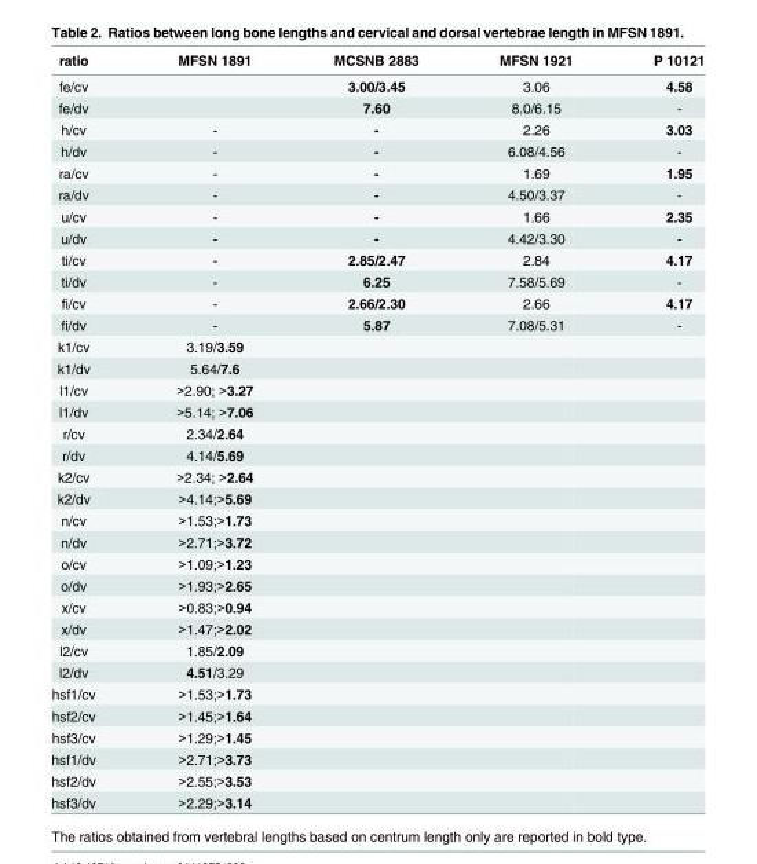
<table><thead><tr><td>ratio</td><td>MFSN 1891</td><td>MCSNB 2883</td><td>MFSN 1921</td><td>P 10121</td></tr></thead><tbody><tr><td>fe/cv</td><td></td><td>3.00/3.45</td><td>3.06</td><td>4.58</td></tr><tr><td>fe/dv</td><td></td><td>7.60</td><td>8.0/6.15</td><td>-</td></tr><tr><td>h/cv</td><td>-</td><td>-</td><td>2.26</td><td>3.03</td></tr><tr><td>h/dv</td><td>-</td><td>-</td><td>6.08/4.56</td><td>-</td></tr><tr><td>ra/cv</td><td>-</td><td>-</td><td>1.69</td><td>1.95</td></tr><tr><td>ra/dv</td><td>-</td><td>-</td><td>4.50/3.37</td><td>-</td></tr><tr><td>u/cv</td><td>-</td><td>-</td><td>1.66</td><td>2.35</td></tr><tr><td>u/dv</td><td>-</td><td>-</td><td>4.42/3.30</td><td>-</td></tr><tr><td>ti/cv</td><td>-</td><td>2.85/2.47</td><td>2.84</td><td>4.17</td></tr><tr><td>ti/dv</td><td>-</td><td>6.25</td><td>7.58/5.69</td><td>-</td></tr><tr><td>fi/cv</td><td>-</td><td>2.66/2.30</td><td>2.66</td><td>4.17</td></tr><tr><td>fi/dv</td><td>-</td><td>5.87</td><td>7.08/5.31</td><td>-</td></tr><tr><td>k1/cv</td><td>3.19/3.59</td><td></td><td></td><td></td></tr><tr><td>k1/dv</td><td>5.64/7.6</td><td></td><td></td><td></td></tr><tr><td>l1/cv</td><td>&gt;2.90; &gt;3.27</td><td></td><td></td><td></td></tr><tr><td>l1/dv</td><td>&gt;5.14; &gt;7.06</td><td></td><td></td><td></td></tr><tr><td>r/cv</td><td>2.34/2.64</td><td></td><td></td><td></td></tr><tr><td>r/dv</td><td>4.14/5.69</td><td></td><td></td><td></td></tr><tr><td>k2/cv</td><td>&gt;2.34; &gt;2.64</td><td></td><td></td><td></td></tr><tr><td>k2/dv</td><td>&gt;4.14;&gt;5.69</td><td></td><td></td><td></td></tr><tr><td>n/cv</td><td>&gt;1.53;&gt;1.73</td><td></td><td></td><td></td></tr><tr><td>n/dv</td><td>&gt;2.71;&gt;3.72</td><td></td><td></td><td></td></tr><tr><td>o/cv</td><td>&gt;1.09;&gt;1.23</td><td></td><td></td><td></td></tr><tr><td>o/dv</td><td>&gt;1.93;&gt;2.65</td><td></td><td></td><td></td></tr><tr><td>x/cv</td><td>&gt;0.83;&gt;0.94</td><td></td><td></td><td></td></tr><tr><td>x/dv</td><td>&gt;1.47;&gt;2.02</td><td></td><td></td><td></td></tr><tr><td>l2/cv</td><td>1.85/2.09</td><td></td><td></td><td></td></tr><tr><td>l2/dv</td><td>4.51/3.29</td><td></td><td></td><td></td></tr><tr><td>hsf1/cv</td><td>&gt;1.53;&gt;1.73</td><td></td><td></td><td></td></tr><tr><td>hsf2/cv</td><td>&gt;1.45;&gt;1.64</td><td></td><td></td><td></td></tr><tr><td>hsf3/cv</td><td>&gt;1.29;&gt;1.45</td><td></td><td></td><td></td></tr><tr><td>hsf1/dv</td><td>&gt;2.71;&gt;3.73</td><td></td><td></td><td></td></tr><tr><td>hsf2/dv</td><td>&gt;2.55;&gt;3.53</td><td></td><td></td><td></td></tr><tr><td>hsf3/dv</td><td>&gt;2.29;&gt;3.14</td><td></td><td></td><td></td></tr></tbody></table>